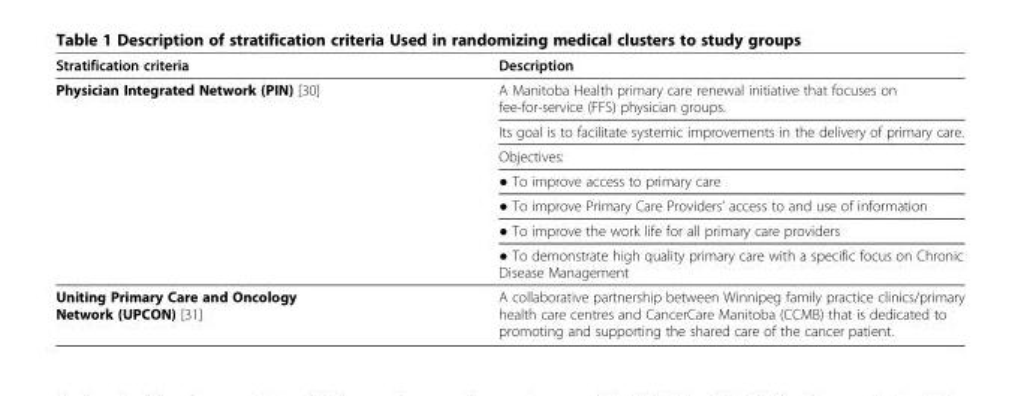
<table><thead><tr><td>Stratification criteria</td><td>Description</td></tr></thead><tbody><tr><td rowspan="7">Physician Integrated Network (PIN) [30]</td><td>A Manitoba Health primary care renewal initiative that focuses on fee-for-service (FFS) physician groups.</td></tr><tr><td>Its goal is to facilitate systemic improvements in the delivery of primary care.</td></tr><tr><td>Objectives:</td></tr><tr><td>● To improve access to primary care</td></tr><tr><td>● To improve Primary Care Providers’ access to and use of information</td></tr><tr><td>● To improve the work life for all primary care providers</td></tr><tr><td>● To demonstrate high quality primary care with a specific focus on Chronic Disease Management</td></tr><tr><td>Uniting Primary Care and Oncology Network (UPCON) [31]</td><td>A collaborative partnership between Winnipeg family practice clinics/primary health care centres and CancerCare Manitoba (CCMB) that is dedicated to promoting and supporting the shared care of the cancer patient.</td></tr></tbody></table>